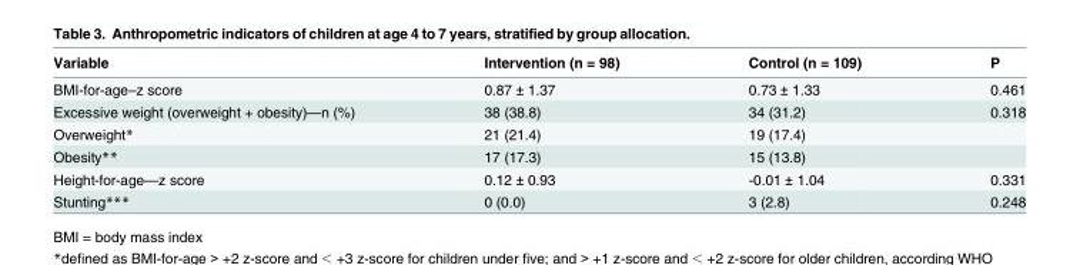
<table><thead><tr><td>Variable</td><td>Intervention (n = 98)</td><td>Control (n = 109)</td><td>P</td></tr></thead><tbody><tr><td>BMI-for-age–z score</td><td>0.87 ± 1.37</td><td>0.73 ± 1.33</td><td>0.461</td></tr><tr><td>Excessive weight (overweight + obesity)—n (%)</td><td>38 (38.8)</td><td>34 (31.2)</td><td>0.318</td></tr><tr><td>Overweight*</td><td>21 (21.4)</td><td>19 (17.4)</td><td></td></tr><tr><td>Obesity**</td><td>17 (17.3)</td><td>15 (13.8)</td><td></td></tr><tr><td>Height-for-age—z score</td><td>0.12 ± 0.93</td><td>-0.01 ± 1.04</td><td>0.331</td></tr><tr><td>Stunting***</td><td>0 (0.0)</td><td>3 (2.8)</td><td>0.248</td></tr></tbody></table>